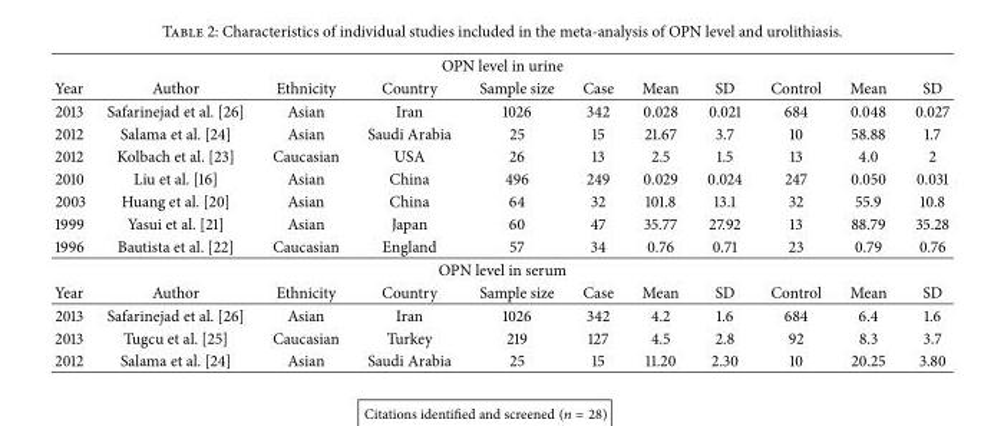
<table><thead><tr><td colspan="11">OPN level in urine</td></tr><tr><td>Year</td><td>Author</td><td>Ethnicity</td><td>Country</td><td>Sample size</td><td>Case</td><td>Mean</td><td>SD</td><td>Control</td><td>Mean</td><td>SD</td></tr></thead><tbody><tr><td>2013</td><td>Safarinejad et al. [26]</td><td>Asian</td><td>Iran</td><td>1026</td><td>342</td><td>0.028</td><td>0.021</td><td>684</td><td>0.048</td><td>0.027</td></tr><tr><td>2012</td><td>Salama et al. [24]</td><td>Asian</td><td>Saudi Arabia</td><td>25</td><td>15</td><td>21.67</td><td>3.7</td><td>10</td><td>58.88</td><td>1.7</td></tr><tr><td>2012</td><td>Kolbach et al. [23]</td><td>Caucasian</td><td>USA</td><td>26</td><td>13</td><td>2.5</td><td>1.5</td><td>13</td><td>4.0</td><td>2</td></tr><tr><td>2010</td><td>Liu et al. [16]</td><td>Asian</td><td>China</td><td>496</td><td>249</td><td>0.029</td><td>0.024</td><td>247</td><td>0.050</td><td>0.031</td></tr><tr><td>2003</td><td>Huang et al. [20]</td><td>Asian</td><td>China</td><td>64</td><td>32</td><td>101.8</td><td>13.1</td><td>32</td><td>55.9</td><td>10.8</td></tr><tr><td>1999</td><td>Yasui et al. [21]</td><td>Asian</td><td>Japan</td><td>60</td><td>47</td><td>35.77</td><td>27.92</td><td>13</td><td>88.79</td><td>35.28</td></tr><tr><td>1996</td><td>Bautista et al. [22]</td><td>Caucasian</td><td>England</td><td>57</td><td>34</td><td>0.76</td><td>0.71</td><td>23</td><td>0.79</td><td>0.76</td></tr><tr><td colspan="11">OPN level in serum</td></tr><tr><td>Year</td><td>Author</td><td>Ethnicity</td><td>Country</td><td>Sample size</td><td>Case</td><td>Mean</td><td>SD</td><td>Control</td><td>Mean</td><td>SD</td></tr><tr><td>2013</td><td>Safarinejad et al. [26]</td><td>Asian</td><td>Iran</td><td>1026</td><td>342</td><td>4.2</td><td>1.6</td><td>684</td><td>6.4</td><td>1.6</td></tr><tr><td>2013</td><td>Tugcu et al. [25]</td><td>Caucasian</td><td>Turkey</td><td>219</td><td>127</td><td>4.5</td><td>2.8</td><td>92</td><td>8.3</td><td>3.7</td></tr><tr><td>2012</td><td>Salama et al. [24]</td><td>Asian</td><td>Saudi Arabia</td><td>25</td><td>15</td><td>11.20</td><td>2.30</td><td>10</td><td>20.25</td><td>3.80</td></tr></tbody></table>